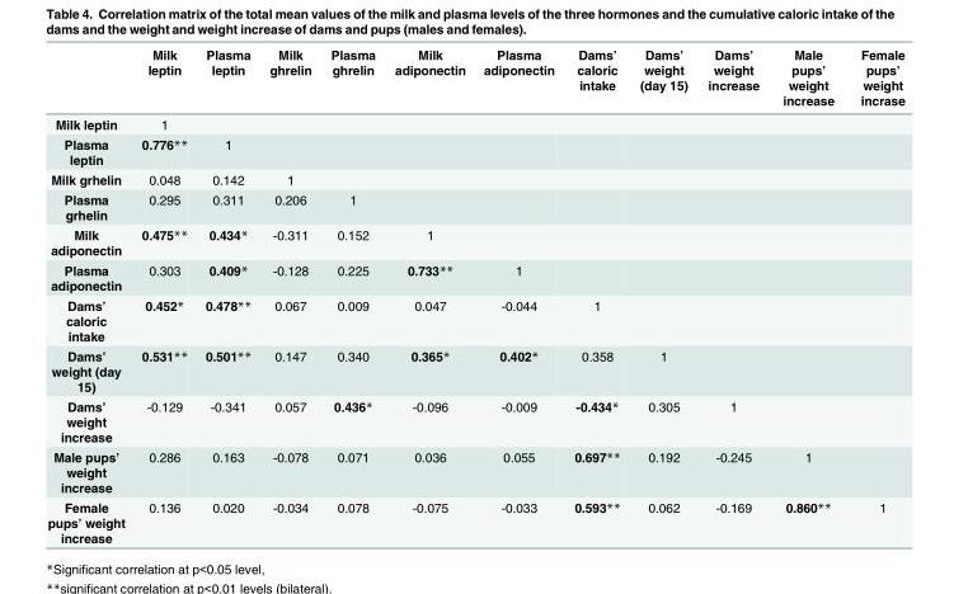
<table><thead><tr><td></td><td>Milk leptin</td><td>Plasma leptin</td><td>Milk ghrelin</td><td>Plasma ghrelin</td><td>Milk adiponectin</td><td>Plasma adiponectin</td><td>Dams’ caloric intake</td><td>Dams’ weight (day 15)</td><td>Dams’ weight increase</td><td>Male pups’ weight increase</td><td>Female pups’ weight incrase</td></tr></thead><tbody><tr><td>Milk leptin</td><td>1</td><td></td><td></td><td></td><td></td><td></td><td></td><td></td><td></td><td></td><td></td></tr><tr><td>Plasma leptin</td><td>0.776**</td><td>1</td><td></td><td></td><td></td><td></td><td></td><td></td><td></td><td></td><td></td></tr><tr><td>Milk grhelin</td><td>0.048</td><td>0.142</td><td>1</td><td></td><td></td><td></td><td></td><td></td><td></td><td></td><td></td></tr><tr><td>Plasma grhelin</td><td>0.295</td><td>0.311</td><td>0.206</td><td>1</td><td></td><td></td><td></td><td></td><td></td><td></td><td></td></tr><tr><td>Milk adiponectin</td><td>0.475**</td><td>0.434*</td><td>-0.311</td><td>0.152</td><td>1</td><td></td><td></td><td></td><td></td><td></td><td></td></tr><tr><td>Plasma adiponectin</td><td>0.303</td><td>0.409*</td><td>-0.128</td><td>0.225</td><td>0.733**</td><td>1</td><td></td><td></td><td></td><td></td><td></td></tr><tr><td>Dams’ caloric intake</td><td>0.452*</td><td>0.478**</td><td>0.067</td><td>0.009</td><td>0.047</td><td>-0.044</td><td>1</td><td></td><td></td><td></td><td></td></tr><tr><td>Dams’ weight (day 15)</td><td>0.531**</td><td>0.501**</td><td>0.147</td><td>0.340</td><td>0.365*</td><td>0.402*</td><td>0.358</td><td>1</td><td></td><td></td><td></td></tr><tr><td>Dams’ weight increase</td><td>-0.129</td><td>-0.341</td><td>0.057</td><td>0.436*</td><td>-0.096</td><td>-0.009</td><td>-0.434*</td><td>0.305</td><td>1</td><td></td><td></td></tr><tr><td>Male pups’ weight increase</td><td>0.286</td><td>0.163</td><td>-0.078</td><td>0.071</td><td>0.036</td><td>0.055</td><td>0.697**</td><td>0.192</td><td>-0.245</td><td>1</td><td></td></tr><tr><td>Female pups’ weight increase</td><td>0.136</td><td>0.020</td><td>-0.034</td><td>0.078</td><td>-0.075</td><td>-0.033</td><td>0.593**</td><td>0.062</td><td>-0.169</td><td>0.860**</td><td>1</td></tr></tbody></table>